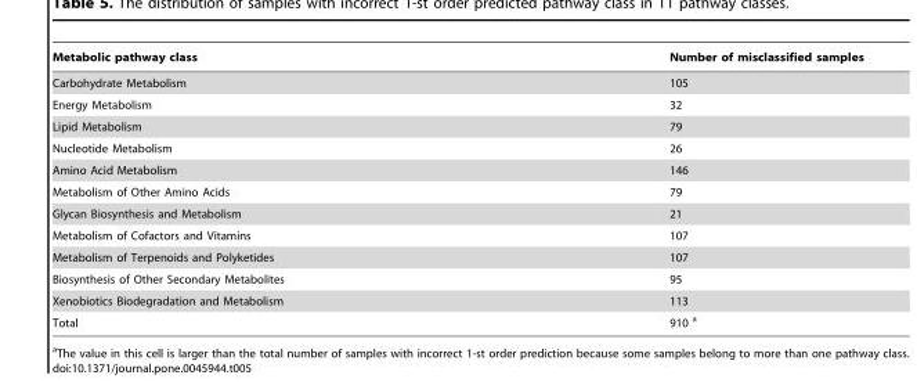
<table><thead><tr><td>Metabolic pathway class</td><td>Number of misclassified samples</td></tr></thead><tbody><tr><td>Carbohydrate Metabolism</td><td>105</td></tr><tr><td>Energy Metabolism</td><td>32</td></tr><tr><td>Lipid Metabolism</td><td>79</td></tr><tr><td>Nucleotide Metabolism</td><td>26</td></tr><tr><td>Amino Acid Metabolism</td><td>146</td></tr><tr><td>Metabolism of Other Amino Acids</td><td>79</td></tr><tr><td>Glycan Biosynthesis and Metabolism</td><td>21</td></tr><tr><td>Metabolism of Cofactors and Vitamins</td><td>107</td></tr><tr><td>Metabolism of Terpenoids and Polyketides</td><td>107</td></tr><tr><td>Biosynthesis of Other Secondary Metabolites</td><td>95</td></tr><tr><td>Xenobiotics Biodegradation and Metabolism</td><td>113</td></tr><tr><td>Total</td><td>910 a</td></tr></tbody></table>